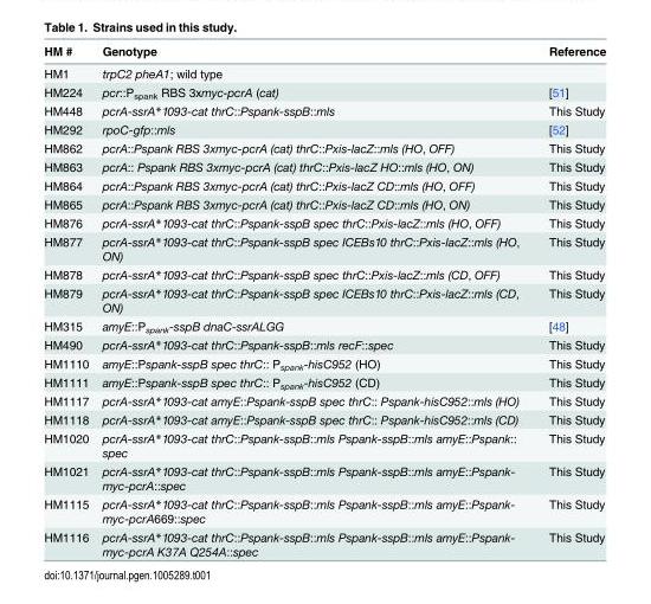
<table><thead><tr><td>HM #</td><td>Genotype</td><td>Reference</td></tr></thead><tbody><tr><td>HM1</td><td>trpC2 pheA1; wild type</td><td></td></tr><tr><td>HM224</td><td>pcr::P<sub>spank</sub> RBS 3xmyc-pcrA (cat)</td><td>[51]</td></tr><tr><td>HM448</td><td>pcrA-ssrA*1093-cat thrC::Pspank-sspB::mls</td><td>This Study</td></tr><tr><td>HM292</td><td>rpoC-gfp::mls</td><td>[52]</td></tr><tr><td>HM862</td><td>pcrA::Pspank RBS 3xmyc-pcrA (cat) thrC::Pxis-lacZ::mls (HO, OFF)</td><td>This Study</td></tr><tr><td>HM863</td><td>pcrA:: Pspank RBS 3xmyc-pcrA (cat) thrC::Pxis-lacZ HO::mls (HO, ON)</td><td>This Study</td></tr><tr><td>HM864</td><td>pcrA::Pspank RBS 3xmyc-pcrA (cat) thrC::Pxis-lacZ CD::mls (HO, OFF)</td><td>This Study</td></tr><tr><td>HM865</td><td>pcrA::Pspank RBS 3xmyc-pcrA (cat) thrC::Pxis-lacZ CD::mls (HO, ON)</td><td>This Study</td></tr><tr><td>HM876</td><td>pcrA-ssrA*1093-cat thrC::Pspank-sspB spec thrC::Pxis-lacZ::mls (HO, OFF)</td><td>This Study</td></tr><tr><td>HM877</td><td>pcrA-ssrA*1093-cat thrC::Pspank-sspB spec ICEBs10 thrC::Pxis-lacZ::mls (HO, ON)</td><td>This Study</td></tr><tr><td>HM878</td><td>pcrA-ssrA*1093-cat thrC::Pspank-sspB spec thrC::Pxis-lacZ::mls (CD, OFF)</td><td>This Study</td></tr><tr><td>HM879</td><td>pcrA-ssrA*1093-cat thrC::Pspank-sspB spec ICEBs10 thrC::Pxis-lacZ::mls (CD, ON)</td><td>This Study</td></tr><tr><td>HM315</td><td>amyE::P<sub>spank</sub>-sspB dnaC-ssrALGG</td><td>[48]</td></tr><tr><td>HM490</td><td>pcrA-ssrA*1093-cat thrC::Pspank-sspB::mls recF::spec</td><td>This Study</td></tr><tr><td>HM1110</td><td>amyE::Pspank-sspB spec thrC:: P<sub>spank</sub>-hisC952 (HO)</td><td>This Study</td></tr><tr><td>HM1111</td><td>amyE::Pspank-sspB spec thrC:: P<sub>spank</sub>-hisC952 (CD)</td><td>This Study</td></tr><tr><td>HM1117</td><td>pcrA-ssrA*1093-cat amyE::Pspank-sspB spec thrC:: Pspank-hisC952::mls (HO)</td><td>This Study</td></tr><tr><td>HM1118</td><td>pcrA-ssrA*1093-cat amyE::Pspank-sspB spec thrC:: Pspank-hisC952::mls (CD)</td><td>This Study</td></tr><tr><td>HM1020</td><td>pcrA-ssrA*1093-cat thrC::Pspank-sspB::mls Pspank-sspB::mls amyE::Pspank:: spec</td><td>This Study</td></tr><tr><td>HM1021</td><td>pcrA-ssrA*1093-cat thrC::Pspank-sspB::mls Pspank-sspB::mls amyE::Pspank- myc-pcrA::spec</td><td>This Study</td></tr><tr><td>HM1115</td><td>pcrA-ssrA*1093-cat thrC::Pspank-sspB::mls Pspank-sspB::mls amyE::Pspank- myc-pcrA669::spec</td><td>This Study</td></tr><tr><td>HM1116</td><td>pcrA-ssrA*1093-cat thrC::Pspank-sspB::mls Pspank-sspB::mls amyE::Pspank- myc-pcrA K37A Q254A::spec</td><td>This Study</td></tr></tbody></table>